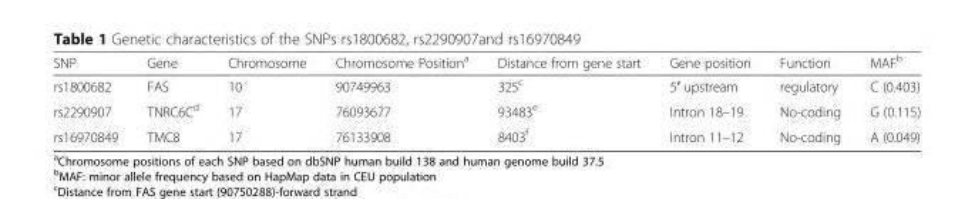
<table><thead><tr><td>SNP</td><td>Gene</td><td>Chromosome</td><td>Chromosome Position<sup>a</sup></td><td>Distance from gene start</td><td>Gene position</td><td>Function</td><td>MAF<sup>b</sup></td></tr></thead><tbody><tr><td>rs1800682</td><td>FAS</td><td>10</td><td>90749963</td><td>325<sup>c</sup></td><td>5′ upstream</td><td>regulatory</td><td>C (0.403)</td></tr><tr><td>rs2290907</td><td>TNRC6C<sup>d</sup></td><td>17</td><td>76093677</td><td>93483<sup>e</sup></td><td>Intron 18–19</td><td>No-coding</td><td>G (0.115)</td></tr><tr><td>rs16970849</td><td>TMC8</td><td>17</td><td>76133908</td><td>8403<sup>f</sup></td><td>Intron 11–12</td><td>No-coding</td><td>A (0.049)</td></tr></tbody></table>